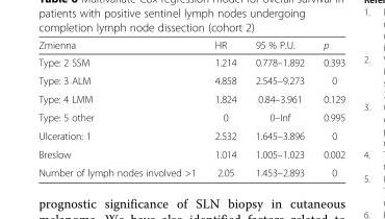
<table><thead><tr><td>Zmienna</td><td>HR</td><td>95 % P.U.</td><td>p</td></tr></thead><tbody><tr><td>Type: 2 SSM</td><td>1.214</td><td>0.778–1.892</td><td>0.393</td></tr><tr><td>Type: 3 ALM</td><td>4.858</td><td>2.545–9.273</td><td>0</td></tr><tr><td>Type: 4 LMM</td><td>1.824</td><td>0.84–3.961</td><td>0.129</td></tr><tr><td>Type: 5 other</td><td>0</td><td>0–Inf</td><td>0.995</td></tr><tr><td>Ulceration: 1</td><td>2.532</td><td>1.645–3.896</td><td>0</td></tr><tr><td>Breslow</td><td>1.014</td><td>1.005–1.023</td><td>0.002</td></tr><tr><td>Number of lymph nodes involved &gt;1</td><td>2.05</td><td>1.453–2.893</td><td>0</td></tr></tbody></table>